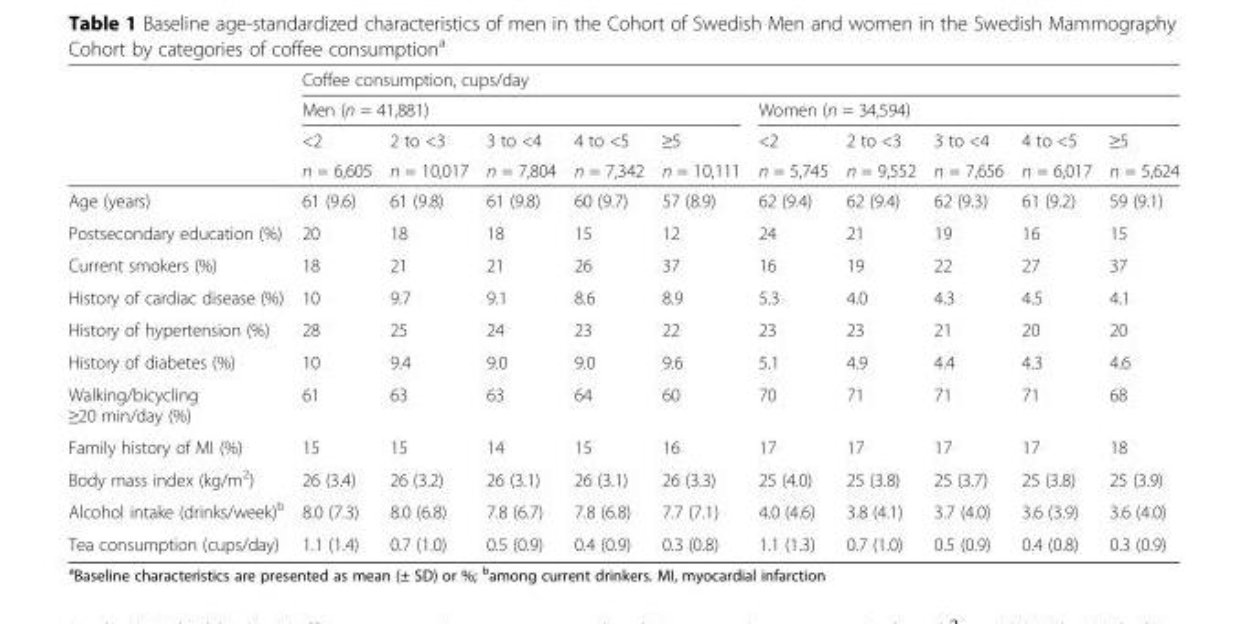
<table><thead><tr><td rowspan="4"></td><td colspan="10">Coffee consumption, cups/day</td></tr><tr><td colspan="5">Men (n = 41,881)</td><td colspan="5">Women (n = 34,594)</td></tr><tr><td rowspan="2">&lt;2 n = 6,605</td><td rowspan="2">2 to &lt;3 n = 10,017</td><td rowspan="2">3 to &lt;4 n = 7,804</td><td rowspan="2">4 to &lt;5 n = 7,342</td><td rowspan="2">≥5 n = 10,111</td><td rowspan="2">&lt;2 n = 5,745</td><td rowspan="2">2 to &lt;3 n = 9,552</td><td rowspan="2">3 to &lt;4 n = 7,656</td><td rowspan="2">4 to &lt;5 n = 6,017</td><td rowspan="2">≥5 n = 5,624</td></tr><tr></tr></thead><tbody><tr><td>Age (years)</td><td>61 (9.6)</td><td>61 (9.8)</td><td>61 (9.8)</td><td>60 (9.7)</td><td>57 (8.9)</td><td>62 (9.4)</td><td>62 (9.4)</td><td>62 (9.3)</td><td>61 (9.2)</td><td>59 (9.1)</td></tr><tr><td>Postsecondary education (%)</td><td>20</td><td>18</td><td>18</td><td>15</td><td>12</td><td>24</td><td>21</td><td>19</td><td>16</td><td>15</td></tr><tr><td>Current smokers (%)</td><td>18</td><td>21</td><td>21</td><td>26</td><td>37</td><td>16</td><td>19</td><td>22</td><td>27</td><td>37</td></tr><tr><td>History of cardiac disease (%)</td><td>10</td><td>9.7</td><td>9.1</td><td>8.6</td><td>8.9</td><td>5.3</td><td>4.0</td><td>4.3</td><td>4.5</td><td>4.1</td></tr><tr><td>History of hypertension (%)</td><td>28</td><td>25</td><td>24</td><td>23</td><td>22</td><td>23</td><td>23</td><td>21</td><td>20</td><td>20</td></tr><tr><td>History of diabetes (%)</td><td>10</td><td>9.4</td><td>9.0</td><td>9.0</td><td>9.6</td><td>5.1</td><td>4.9</td><td>4.4</td><td>4.3</td><td>4.6</td></tr><tr><td>Walking/bicycling ≥20 min/day (%)</td><td>61</td><td>63</td><td>63</td><td>64</td><td>60</td><td>70</td><td>71</td><td>71</td><td>71</td><td>68</td></tr><tr><td>Family history of MI (%)</td><td>15</td><td>15</td><td>14</td><td>15</td><td>16</td><td>17</td><td>17</td><td>17</td><td>17</td><td>18</td></tr><tr><td>Body mass index (kg/m<sup>2</sup>)</td><td>26 (3.4)</td><td>26 (3.2)</td><td>26 (3.1)</td><td>26 (3.1)</td><td>26 (3.3)</td><td>25 (4.0)</td><td>25 (3.8)</td><td>25 (3.7)</td><td>25 (3.8)</td><td>25 (3.9)</td></tr><tr><td>Alcohol intake (drinks/week)<sup>b</sup></td><td>8.0 (7.3)</td><td>8.0 (6.8)</td><td>7.8 (6.7)</td><td>7.8 (6.8)</td><td>7.7 (7.1)</td><td>4.0 (4.6)</td><td>3.8 (4.1)</td><td>3.7 (4.0)</td><td>3.6 (3.9)</td><td>3.6 (4.0)</td></tr><tr><td>Tea consumption (cups/day)</td><td>1.1 (1.4)</td><td>0.7 (1.0)</td><td>0.5 (0.9)</td><td>0.4 (0.9)</td><td>0.3 (0.8)</td><td>1.1 (1.3)</td><td>0.7 (1.0)</td><td>0.5 (0.9)</td><td>0.4 (0.8)</td><td>0.3 (0.9)</td></tr></tbody></table>